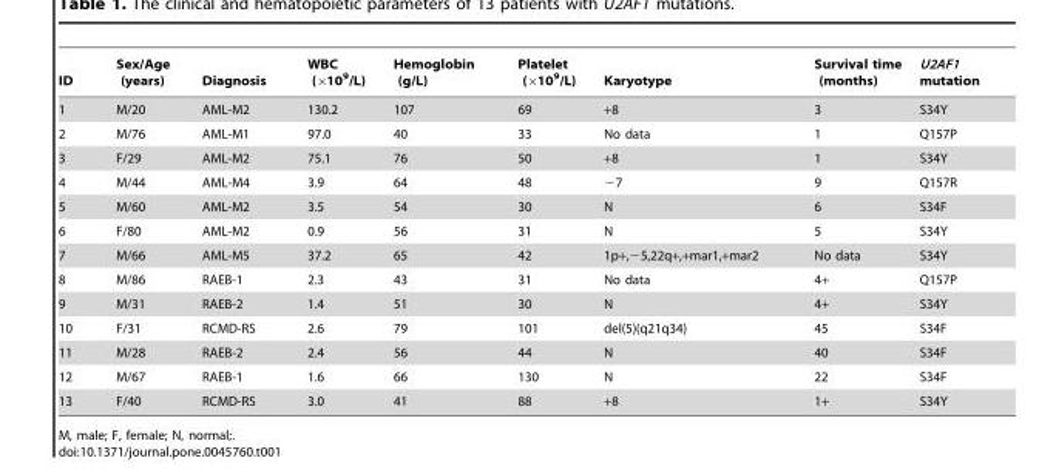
<table><thead><tr><td>ID</td><td>Sex/Age (years)</td><td>Diagnosis</td><td>WBC (×10<sup>9</sup>/L)</td><td>Hemoglobin (g/L)</td><td>Platelet (×10<sup>9</sup>/L)</td><td>Karyotype</td><td>Survival time (months)</td><td>U2AF1 mutation</td></tr></thead><tbody><tr><td>1</td><td>M/20</td><td>AML-M2</td><td>130.2</td><td>107</td><td>69</td><td>+8</td><td>3</td><td>S34Y</td></tr><tr><td>2</td><td>M/76</td><td>AML-M1</td><td>97.0</td><td>40</td><td>33</td><td>No data</td><td>1</td><td>Q157P</td></tr><tr><td>3</td><td>F/29</td><td>AML-M2</td><td>75.1</td><td>76</td><td>50</td><td>+8</td><td>1</td><td>S34Y</td></tr><tr><td>4</td><td>M/44</td><td>AML-M4</td><td>3.9</td><td>64</td><td>48</td><td>−7</td><td>9</td><td>Q157R</td></tr><tr><td>5</td><td>M/60</td><td>AML-M2</td><td>3.5</td><td>54</td><td>30</td><td>N</td><td>6</td><td>S34F</td></tr><tr><td>6</td><td>F/80</td><td>AML-M2</td><td>0.9</td><td>56</td><td>31</td><td>N</td><td>5</td><td>S34Y</td></tr><tr><td>7</td><td>M/66</td><td>AML-M5</td><td>37.2</td><td>65</td><td>42</td><td>1p+,−5,22q+,+mar1,+mar2</td><td>No data</td><td>S34Y</td></tr><tr><td>8</td><td>M/86</td><td>RAEB-1</td><td>2.3</td><td>43</td><td>31</td><td>No data</td><td>4+</td><td>Q157P</td></tr><tr><td>9</td><td>M/31</td><td>RAEB-2</td><td>1.4</td><td>51</td><td>30</td><td>N</td><td>4+</td><td>S34Y</td></tr><tr><td>10</td><td>F/31</td><td>RCMD-RS</td><td>2.6</td><td>79</td><td>101</td><td>del(5)(q21q34)</td><td>45</td><td>S34F</td></tr><tr><td>11</td><td>M/28</td><td>RAEB-2</td><td>2.4</td><td>56</td><td>44</td><td>N</td><td>40</td><td>S34F</td></tr><tr><td>12</td><td>M/67</td><td>RAEB-1</td><td>1.6</td><td>66</td><td>130</td><td>N</td><td>22</td><td>S34F</td></tr><tr><td>13</td><td>F/40</td><td>RCMD-RS</td><td>3.0</td><td>41</td><td>88</td><td>+8</td><td>1+</td><td>S34Y</td></tr></tbody></table>